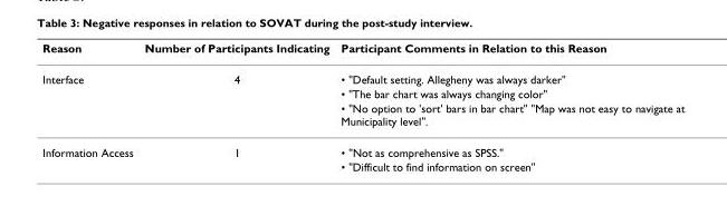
<table><thead><tr><td>Reason</td><td>Number of Participants Indicating</td><td>Participant Comments in Relation to this Reason</td></tr></thead><tbody><tr><td rowspan="3">Interface</td><td>4</td><td>• &quot;Default setting. Allegheny was always darker&quot;</td></tr><tr><td></td><td>• &quot;The bar chart was always changing color&quot;</td></tr><tr><td></td><td>• &quot;No option to &#x27;sort&#x27; bars in bar chart&quot; &quot;Map was not easy to navigate at Municipality level&quot;.</td></tr><tr><td rowspan="2">Information Access</td><td>1</td><td>• &quot;Not as comprehensive as SPSS.&quot;</td></tr><tr><td></td><td>• &quot;Difficult to find information on screen&quot;</td></tr></tbody></table>